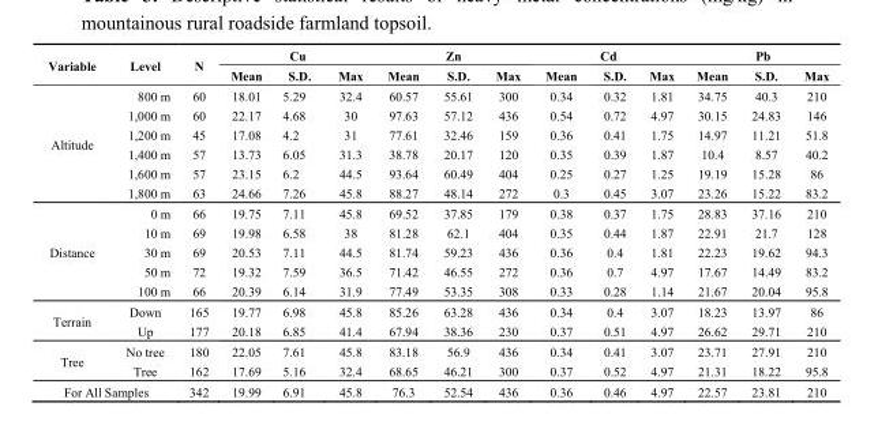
<table><thead><tr><td rowspan="2">Variable</td><td rowspan="2">Level</td><td rowspan="2">N</td><td colspan="3">Cu</td><td colspan="3">Zn</td><td colspan="3">Cd</td><td colspan="3">Pb</td></tr><tr><td>Mean</td><td>S.D.</td><td>Max</td><td>Mean</td><td>S.D.</td><td>Max</td><td>Mean</td><td>S.D.</td><td>Max</td><td>Mean</td><td>S.D.</td><td>Max</td></tr></thead><tbody><tr><td rowspan="6">Altitude</td><td>800 m</td><td>60</td><td>18.01</td><td>5.29</td><td>32.4</td><td>60.57</td><td>55.61</td><td>300</td><td>0.34</td><td>0.32</td><td>1.81</td><td>34.75</td><td>40.3</td><td>210</td></tr><tr><td>1,000 m</td><td>60</td><td>22.17</td><td>4.68</td><td>30</td><td>97.63</td><td>57.12</td><td>436</td><td>0.54</td><td>0.72</td><td>4.97</td><td>30.15</td><td>24.83</td><td>146</td></tr><tr><td>1,200 m</td><td>45</td><td>17.08</td><td>4.2</td><td>31</td><td>77.61</td><td>32.46</td><td>159</td><td>0.36</td><td>0.41</td><td>1.75</td><td>14.97</td><td>11.21</td><td>51.8</td></tr><tr><td>1,400 m</td><td>57</td><td>13.73</td><td>6.05</td><td>31.3</td><td>38.78</td><td>20.17</td><td>120</td><td>0.35</td><td>0.39</td><td>1.87</td><td>10.4</td><td>8.57</td><td>40.2</td></tr><tr><td>1,600 m</td><td>57</td><td>23.15</td><td>6.2</td><td>44.5</td><td>93.64</td><td>60.49</td><td>404</td><td>0.25</td><td>0.27</td><td>1.25</td><td>19.19</td><td>15.28</td><td>86</td></tr><tr><td>1,800 m</td><td>63</td><td>24.66</td><td>7.26</td><td>45.8</td><td>88.27</td><td>48.14</td><td>272</td><td>0.3</td><td>0.45</td><td>3.07</td><td>23.26</td><td>15.22</td><td>83.2</td></tr><tr><td rowspan="5">Distance</td><td>0 m</td><td>66</td><td>19.75</td><td>7.11</td><td>45.8</td><td>69.52</td><td>37.85</td><td>179</td><td>0.38</td><td>0.37</td><td>1.75</td><td>28.83</td><td>37.16</td><td>210</td></tr><tr><td>10 m</td><td>69</td><td>19.98</td><td>6.58</td><td>38</td><td>81.28</td><td>62.1</td><td>404</td><td>0.35</td><td>0.44</td><td>1.87</td><td>22.91</td><td>21.7</td><td>128</td></tr><tr><td>30 m</td><td>69</td><td>20.53</td><td>7.11</td><td>44.5</td><td>81.74</td><td>59.23</td><td>436</td><td>0.36</td><td>0.4</td><td>1.81</td><td>22.23</td><td>19.62</td><td>94.3</td></tr><tr><td>50 m</td><td>72</td><td>19.32</td><td>7.59</td><td>36.5</td><td>71.42</td><td>46.55</td><td>272</td><td>0.36</td><td>0.7</td><td>4.97</td><td>17.67</td><td>14.49</td><td>83.2</td></tr><tr><td>100 m</td><td>66</td><td>20.39</td><td>6.14</td><td>31.9</td><td>77.49</td><td>53.35</td><td>308</td><td>0.33</td><td>0.28</td><td>1.14</td><td>21.67</td><td>20.04</td><td>95.8</td></tr><tr><td rowspan="2">Terrain</td><td>Down</td><td>165</td><td>19.77</td><td>6.98</td><td>45.8</td><td>85.26</td><td>63.28</td><td>436</td><td>0.34</td><td>0.4</td><td>3.07</td><td>18.23</td><td>13.97</td><td>86</td></tr><tr><td>Up</td><td>177</td><td>20.18</td><td>6.85</td><td>41.4</td><td>67.94</td><td>38.36</td><td>230</td><td>0.37</td><td>0.51</td><td>4.97</td><td>26.62</td><td>29.71</td><td>210</td></tr><tr><td rowspan="2">Tree</td><td>No tree</td><td>180</td><td>22.05</td><td>7.61</td><td>45.8</td><td>83.18</td><td>56.9</td><td>436</td><td>0.34</td><td>0.41</td><td>3.07</td><td>23.71</td><td>27.91</td><td>210</td></tr><tr><td>Tree</td><td>162</td><td>17.69</td><td>5.16</td><td>32.4</td><td>68.65</td><td>46.21</td><td>300</td><td>0.37</td><td>0.52</td><td>4.97</td><td>21.31</td><td>18.22</td><td>95.8</td></tr><tr><td colspan="2">For All Samples</td><td>342</td><td>19.99</td><td>6.91</td><td>45.8</td><td>76.3</td><td>52.54</td><td>436</td><td>0.36</td><td>0.46</td><td>4.97</td><td>22.57</td><td>23.81</td><td>210</td></tr></tbody></table>